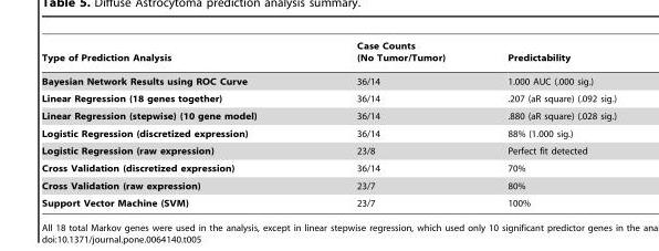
<table><thead><tr><td>Type of Prediction Analysis</td><td>Case Counts (No Tumor/Tumor)</td><td>Predictability</td></tr></thead><tbody><tr><td>Bayesian Network Results using ROC Curve</td><td>36/14</td><td>1.000 AUC (.000 sig.)</td></tr><tr><td>Linear Regression (18 genes together)</td><td>36/14</td><td>.207 (aR square) (.092 sig.)</td></tr><tr><td>Linear Regression (stepwise) (10 gene model)</td><td>36/14</td><td>.880 (aR square) (.028 sig.)</td></tr><tr><td>Logistic Regression (discretized expression)</td><td>36/14</td><td>88% (1.000 sig.)</td></tr><tr><td>Logistic Regression (raw expression)</td><td>23/8</td><td>Perfect fit detected</td></tr><tr><td>Cross Validation (discretized expression)</td><td>36/14</td><td>70%</td></tr><tr><td>Cross Validation (raw expression)</td><td>23/7</td><td>80%</td></tr><tr><td>Support Vector Machine (SVM)</td><td>23/7</td><td>100%</td></tr></tbody></table>